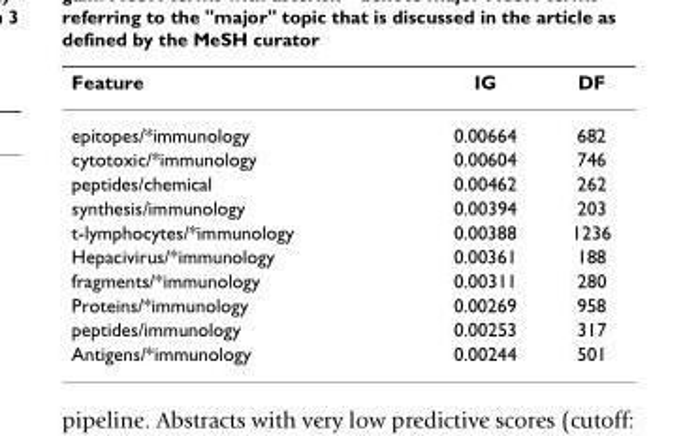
<table><thead><tr><td>Feature</td><td>IG</td><td>DF</td></tr></thead><tbody><tr><td>epitopes/*immunology</td><td>0.00664</td><td>682</td></tr><tr><td>cytotoxic/*immunology</td><td>0.00604</td><td>746</td></tr><tr><td>peptides/chemical</td><td>0.00462</td><td>262</td></tr><tr><td>synthesis/immunology</td><td>0.00394</td><td>203</td></tr><tr><td>t-lymphocytes/*immunology</td><td>0.00388</td><td>1236</td></tr><tr><td>Hepacivirus/*immunology</td><td>0.00361</td><td>188</td></tr><tr><td>fragments/*immunology</td><td>0.00311</td><td>280</td></tr><tr><td>Proteins/*immunology</td><td>0.00269</td><td>958</td></tr><tr><td>peptides/immunology</td><td>0.00253</td><td>317</td></tr><tr><td>Antigens/*immunology</td><td>0.00244</td><td>501</td></tr></tbody></table>